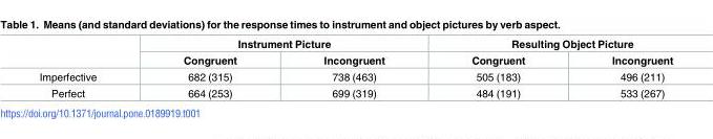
<table><thead><tr><td rowspan="2"></td><td colspan="2">Instrument Picture</td><td colspan="2">Resulting Object Picture</td></tr><tr><td>Congruent</td><td>Incongruent</td><td>Congruent</td><td>Incongruent</td></tr></thead><tbody><tr><td>Imperfective</td><td>682 (315)</td><td>738 (463)</td><td>505 (183)</td><td>496 (211)</td></tr><tr><td>Perfect</td><td>664 (253)</td><td>699 (319)</td><td>484 (191)</td><td>533 (267)</td></tr></tbody></table>